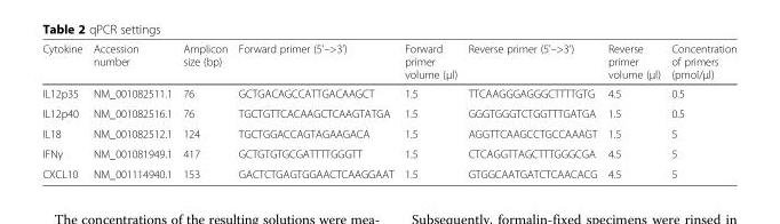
<table><thead><tr><td>Cytokine</td><td>Accession number</td><td>Amplicon size (bp)</td><td>Forward primer (5&#x27;–&gt;3&#x27;)</td><td>Forward primer volume (μl)</td><td>Reverse primer (5&#x27;–&gt;3&#x27;)</td><td>Reverse primer volume (μl)</td><td>Concentration of primers (pmol/μl)</td></tr></thead><tbody><tr><td>IL12p35</td><td>NM_001082511.1</td><td>76</td><td>GCTGACAGCCATTGACAAGCT</td><td>1.5</td><td>TTCAAGGGAGGGCTTTTGTG</td><td>4.5</td><td>0.5</td></tr><tr><td>IL12p40</td><td>NM_001082516.1</td><td>76</td><td>TGCTGTTCACAAGCTCAAGTATGA</td><td>1.5</td><td>GGGTGGGTCTGGTTTGATGA</td><td>1.5</td><td>0.5</td></tr><tr><td>IL18</td><td>NM_001082512.1</td><td>124</td><td>TGCTGGACCAGTAGAAGACA</td><td>1.5</td><td>AGGTTCAAGCCTGCCAAAGT</td><td>1.5</td><td>5</td></tr><tr><td>IFNγ</td><td>NM_001081949.1</td><td>417</td><td>GCTGTGTGCGATTTTGGGTT</td><td>1.5</td><td>CTCAGGTTAGCTTTGGGCGA</td><td>4.5</td><td>5</td></tr><tr><td>CXCL10</td><td>NM_001114940.1</td><td>153</td><td>GACTCTGAGTGGAACTCAAGGAAT</td><td>1.5</td><td>GTGGCAATGATCTCAACACG</td><td>4.5</td><td>5</td></tr></tbody></table>